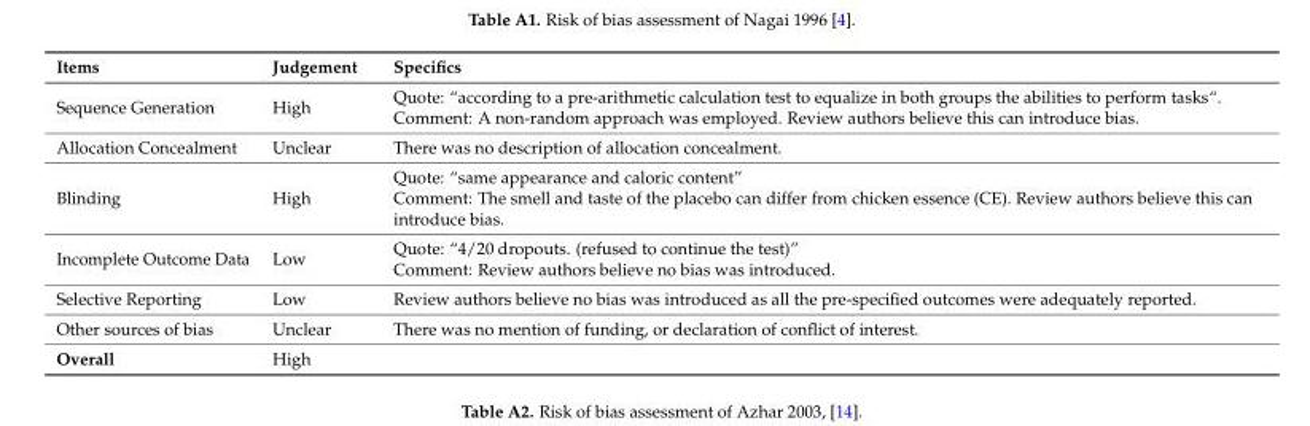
<table><thead><tr><td>Items</td><td>Judgement</td><td>Specifics</td></tr></thead><tbody><tr><td>Sequence Generation</td><td>High</td><td>Quote: “according to a pre-arithmetic calculation test to equalize in both groups the abilities to perform tasks“. Comment: A non-random approach was employed. Review authors believe this can introduce bias.</td></tr><tr><td>Allocation Concealment</td><td>Unclear</td><td>There was no description of allocation concealment.</td></tr><tr><td>Blinding</td><td>High</td><td>Quote: “same appearance and caloric content” Comment: The smell and taste of the placebo can differ from chicken essence (CE). Review authors believe this can introduce bias.</td></tr><tr><td>Incomplete Outcome Data</td><td>Low</td><td>Quote: “4/20 dropouts. (refused to continue the test)” Comment: Review authors believe no bias was introduced.</td></tr><tr><td>Selective Reporting</td><td>Low</td><td>Review authors believe no bias was introduced as all the pre-specified outcomes were adequately reported.</td></tr><tr><td>Other sources of bias</td><td>Unclear</td><td>There was no mention of funding, or declaration of conflict of interest.</td></tr><tr><td>Overall</td><td>High</td><td></td></tr></tbody></table>